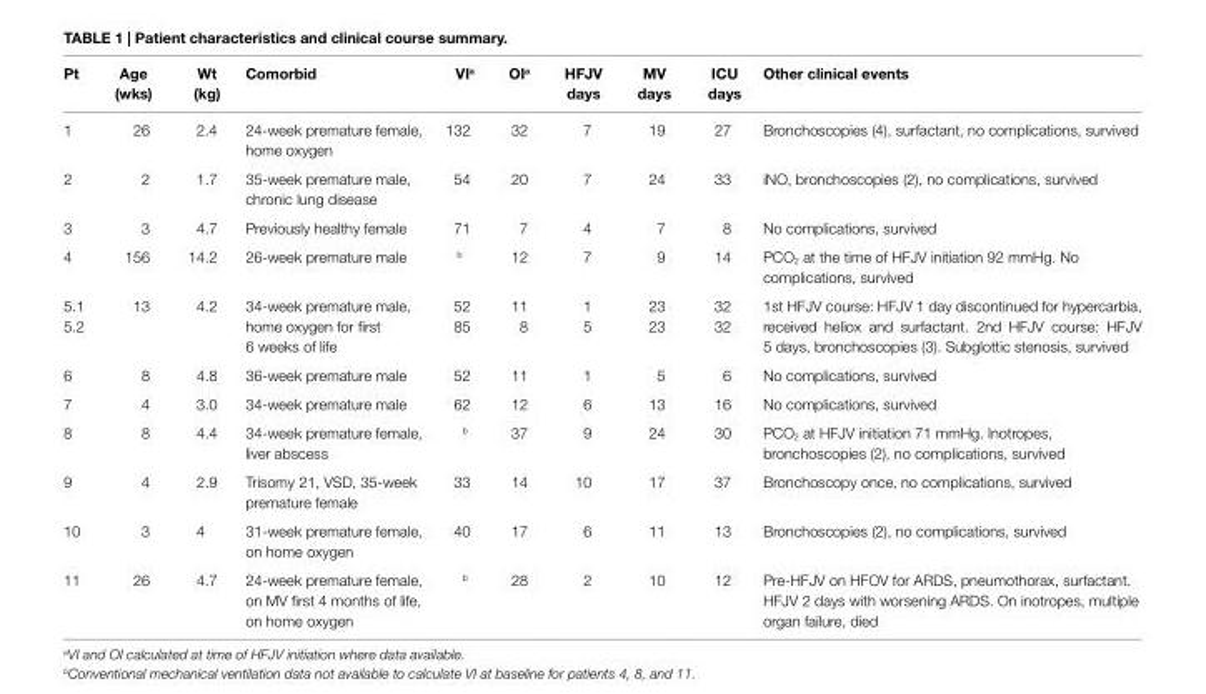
<table><thead><tr><td>Pt</td><td>age (wks)</td><td>Wt (kg)</td><td>comorbid</td><td>Vi<sup>a</sup></td><td>Oi<sup>a</sup></td><td>hFJV days</td><td>MV days</td><td>icU days</td><td>Other clinical events</td></tr></thead><tbody><tr><td>1</td><td>26</td><td>2.4</td><td>24-week premature female, home oxygen</td><td>132</td><td>32</td><td>7</td><td>19</td><td>27</td><td>Bronchoscopies (4), surfactant, no complications, survived</td></tr><tr><td>2</td><td>2</td><td>1.7</td><td>35-week premature male, chronic lung disease</td><td>54</td><td>20</td><td>7</td><td>24</td><td>33</td><td>iNO, bronchoscopies (2), no complications, survived</td></tr><tr><td>3</td><td>3</td><td>4.7</td><td>Previously healthy female</td><td>71</td><td>7</td><td>4</td><td>7</td><td>8</td><td>No complications, survived</td></tr><tr><td>4</td><td>156</td><td>14.2</td><td>26-week premature male</td><td><sup>b</sup></td><td>12</td><td>7</td><td>9</td><td>14</td><td>PCO<sub>2</sub> at the time of HFJV initiation 92 mmHg. No complications, survived</td></tr><tr><td>5.1</td><td rowspan="2">13</td><td rowspan="2">4.2</td><td rowspan="2">34-week premature male, home oxygen for first 6 weeks of life</td><td>52</td><td>11</td><td>1</td><td>23</td><td>32</td><td rowspan="2">1st HFJV course: HFJV 1 day discontinued for hypercarbia, received heliox and surfactant. 2nd HFJV course: HFJV 5 days, bronchoscopies (3). Subglottic stenosis, survived</td></tr><tr><td>5.2</td><td>85</td><td>8</td><td>5</td><td>23</td><td>32</td></tr><tr><td>6</td><td>8</td><td>4.8</td><td>36-week premature male</td><td>52</td><td>11</td><td>1</td><td>5</td><td>6</td><td>No complications, survived</td></tr><tr><td>7</td><td>4</td><td>3.0</td><td>34-week premature male</td><td>62</td><td>12</td><td>6</td><td>13</td><td>16</td><td>No complications, survived</td></tr><tr><td>8</td><td>8</td><td>4.4</td><td>34-week premature female, liver abscess</td><td><sup>b</sup></td><td>37</td><td>9</td><td>24</td><td>30</td><td>PCO<sub>2</sub> at HFJV initiation 71 mmHg. Inotropes, bronchoscopies (2), no complications, survived</td></tr><tr><td>9</td><td>4</td><td>2.9</td><td>Trisomy 21, VSD, 35-week premature female</td><td>33</td><td>14</td><td>10</td><td>17</td><td>37</td><td>Bronchoscopy once, no complications, survived</td></tr><tr><td>10</td><td>3</td><td>4</td><td>31-week premature female, on home oxygen</td><td>40</td><td>17</td><td>6</td><td>11</td><td>13</td><td>Bronchoscopies (2), no complications, survived</td></tr><tr><td>11</td><td>26</td><td>4.7</td><td>24-week premature female, on MV first 4 months of life, on home oxygen</td><td><sup>b</sup></td><td>28</td><td>2</td><td>10</td><td>12</td><td>Pre-HFJV on HFOV for ARDS, pneumothorax, surfactant. HFJV 2 days with worsening ARDS. On inotropes, multiple organ failure, died</td></tr></tbody></table>